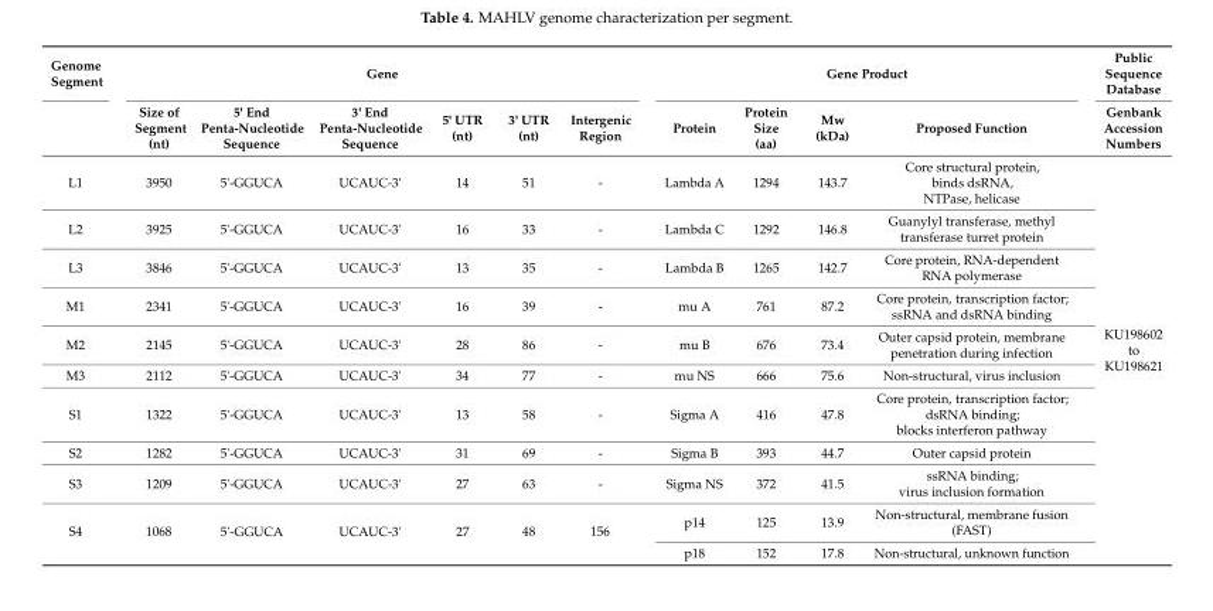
<table><thead><tr><td rowspan="2">Genome Segment</td><td colspan="6">Gene</td><td colspan="4">Gene Product</td><td rowspan="2">Public Sequence Database Genbank Accession Numbers</td></tr><tr><td>Size of Segment (nt)</td><td>5&#x27; End Penta-Nucleotide Sequence</td><td>3&#x27; End Penta-Nucleotide Sequence</td><td>5&#x27; UTR (nt)</td><td>3&#x27; UTR (nt)</td><td>Intergenic Region</td><td>Protein</td><td>Protein Size (aa)</td><td>Mw (kDa)</td><td>Proposed Function</td></tr></thead><tbody><tr><td>L1</td><td>3950</td><td>5&#x27;-GGUCA</td><td>UCAUC-3&#x27;</td><td>14</td><td>51</td><td>-</td><td>Lambda A</td><td>1294</td><td>143.7</td><td>Core structural protein, binds dsRNA, NTPase, helicase</td><td rowspan="11">KU198602 to KU198621</td></tr><tr><td>L2</td><td>3925</td><td>5&#x27;-GGUCA</td><td>UCAUC-3&#x27;</td><td>16</td><td>33</td><td>-</td><td>Lambda C</td><td>1292</td><td>146.8</td><td>Guanylyl transferase, methyl transferase turret protein</td></tr><tr><td>L3</td><td>3846</td><td>5&#x27;-GGUCA</td><td>UCAUC-3&#x27;</td><td>13</td><td>35</td><td>-</td><td>Lambda B</td><td>1265</td><td>142.7</td><td>Core protein, RNA-dependent RNA polymerase</td></tr><tr><td>M1</td><td>2341</td><td>5&#x27;-GGUCA</td><td>UCAUC-3&#x27;</td><td>16</td><td>39</td><td>-</td><td>mu A</td><td>761</td><td>87.2</td><td>Core protein, transcription factor; ssRNA and dsRNA binding</td></tr><tr><td>M2</td><td>2145</td><td>5&#x27;-GGUCA</td><td>UCAUC-3&#x27;</td><td>28</td><td>86</td><td>-</td><td>mu B</td><td>676</td><td>73.4</td><td>Outer capsid protein, membrane penetration during infection</td></tr><tr><td>M3</td><td>2112</td><td>5&#x27;-GGUCA</td><td>UCAUC-3&#x27;</td><td>34</td><td>77</td><td>-</td><td>mu NS</td><td>666</td><td>75.6</td><td>Non-structural, virus inclusion</td></tr><tr><td>S1</td><td>1322</td><td>5&#x27;-GGUCA</td><td>UCAUC-3&#x27;</td><td>13</td><td>58</td><td>-</td><td>Sigma A</td><td>416</td><td>47.8</td><td>Core protein, transcription factor; dsRNA binding; blocks interferon pathway</td></tr><tr><td>S2</td><td>1282</td><td>5&#x27;-GGUCA</td><td>UCAUC-3&#x27;</td><td>31</td><td>69</td><td>-</td><td>Sigma B</td><td>393</td><td>44.7</td><td>Outer capsid protein</td></tr><tr><td>S3</td><td>1209</td><td>5&#x27;-GGUCA</td><td>UCAUC-3&#x27;</td><td>27</td><td>63</td><td>-</td><td>Sigma NS</td><td>372</td><td>41.5</td><td>ssRNA binding; virus inclusion formation</td></tr><tr><td rowspan="2">S4</td><td rowspan="2">1068</td><td rowspan="2">5&#x27;-GGUCA</td><td rowspan="2">UCAUC-3&#x27;</td><td rowspan="2">27</td><td rowspan="2">48</td><td rowspan="2">156</td><td>p14</td><td>125</td><td>13.9</td><td>Non-structural, membrane fusion (FAST)</td></tr><tr><td>p18</td><td>152</td><td>17.8</td><td>Non-structural, unknown function</td></tr></tbody></table>